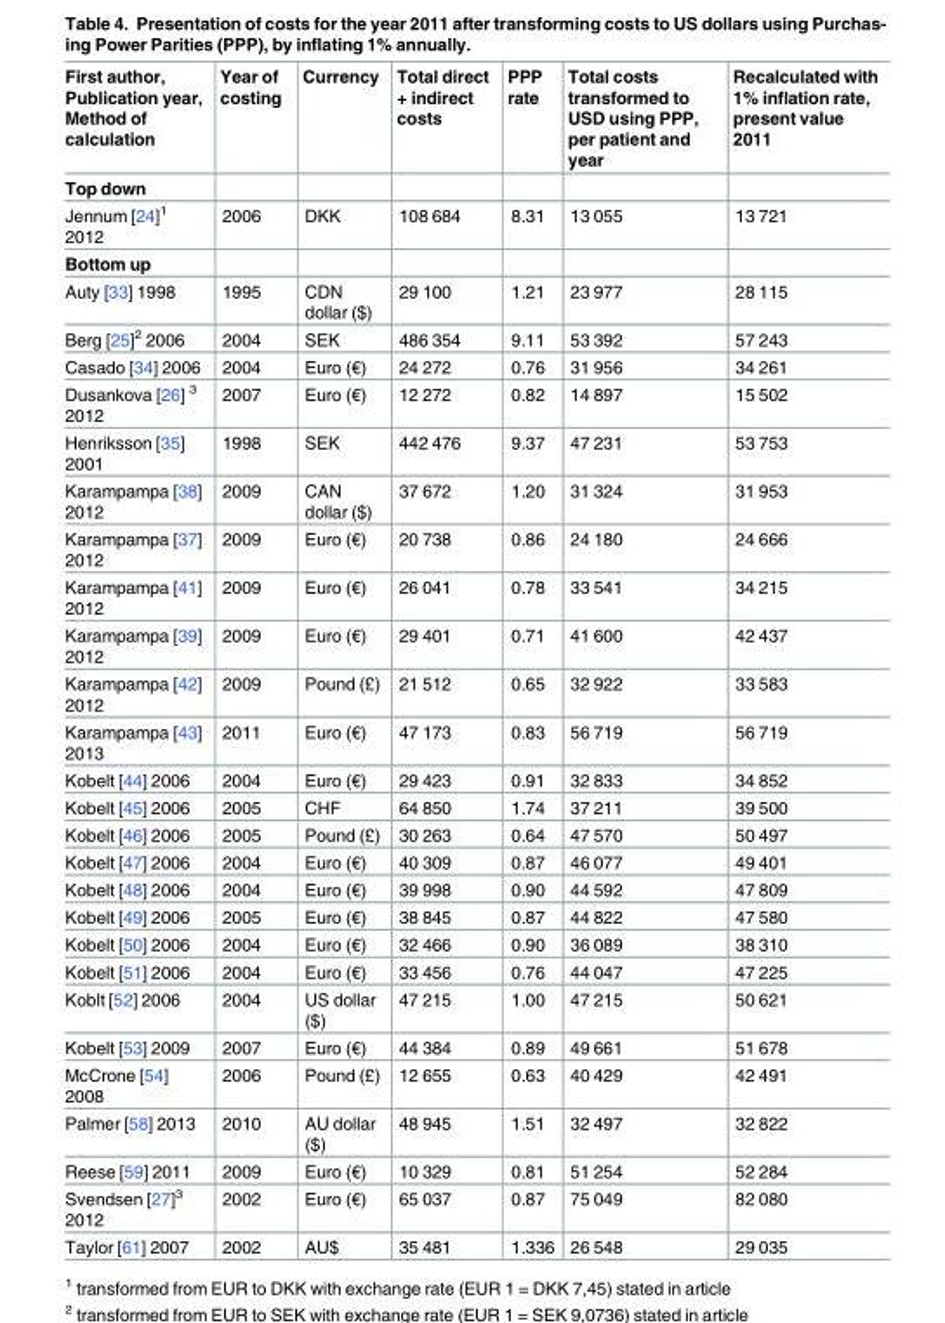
<table><thead><tr><td>First author, Publication year, Method of calculation</td><td>Year of costing</td><td>Currency</td><td>Total direct + indirect costs</td><td>PPP rate</td><td>Total costs transformed to USD using PPP, per patient and year</td><td>Recalculated with 1% inflation rate, present value 2011</td></tr></thead><tbody><tr><td colspan="7">Top down</td></tr><tr><td>Jennum [24]<sup>1</sup> 2012</td><td>2006</td><td>DKK</td><td>108 684</td><td>8.31</td><td>13 055</td><td>13 721</td></tr><tr><td colspan="7">Bottom up</td></tr><tr><td>Auty [33] 1998</td><td>1995</td><td>CDN dollar ($)</td><td>29 100</td><td>1.21</td><td>23 977</td><td>28 115</td></tr><tr><td>Berg [25]<sup>2</sup> 2006</td><td>2004</td><td>SEK</td><td>486 354</td><td>9.11</td><td>53 392</td><td>57 243</td></tr><tr><td>Casado [34] 2006</td><td>2004</td><td>Euro (€)</td><td>24 272</td><td>0.76</td><td>31 956</td><td>34 261</td></tr><tr><td>Dusankova [26] <sup>3</sup> 2012</td><td>2007</td><td>Euro (€)</td><td>12 272</td><td>0.82</td><td>14 897</td><td>15 502</td></tr><tr><td>Henriksson [35] 2001</td><td>1998</td><td>SEK</td><td>442 476</td><td>9.37</td><td>47 231</td><td>53 753</td></tr><tr><td>Karampampa [38] 2012</td><td>2009</td><td>CAN dollar ($)</td><td>37 672</td><td>1.20</td><td>31 324</td><td>31 953</td></tr><tr><td>Karampampa [37] 2012</td><td>2009</td><td>Euro (€)</td><td>20 738</td><td>0.86</td><td>24 180</td><td>24 666</td></tr><tr><td>Karampampa [41] 2012</td><td>2009</td><td>Euro (€)</td><td>26 041</td><td>0.78</td><td>33 541</td><td>34 215</td></tr><tr><td>Karampampa [39] 2012</td><td>2009</td><td>Euro (€)</td><td>29 401</td><td>0.71</td><td>41 600</td><td>42 437</td></tr><tr><td>Karampampa [42] 2012</td><td>2009</td><td>Pound (£)</td><td>21 512</td><td>0.65</td><td>32 922</td><td>33 583</td></tr><tr><td>Karampampa [43] 2013</td><td>2011</td><td>Euro (€)</td><td>47 173</td><td>0.83</td><td>56 719</td><td>56 719</td></tr><tr><td>Kobelt [44] 2006</td><td>2004</td><td>Euro (€)</td><td>29 423</td><td>0.91</td><td>32 833</td><td>34 852</td></tr><tr><td>Kobelt [45] 2006</td><td>2005</td><td>CHF</td><td>64 850</td><td>1.74</td><td>37 211</td><td>39 500</td></tr><tr><td>Kobelt [46] 2006</td><td>2005</td><td>Pound (£)</td><td>30 263</td><td>0.64</td><td>47 570</td><td>50 497</td></tr><tr><td>Kobelt [47] 2006</td><td>2004</td><td>Euro (€)</td><td>40 309</td><td>0.87</td><td>46 077</td><td>49 401</td></tr><tr><td>Kobelt [48] 2006</td><td>2004</td><td>Euro (€)</td><td>39 998</td><td>0.90</td><td>44 592</td><td>47 809</td></tr><tr><td>Kobelt [49] 2006</td><td>2005</td><td>Euro (€)</td><td>38 845</td><td>0.87</td><td>44 822</td><td>47 580</td></tr><tr><td>Kobelt [50] 2006</td><td>2004</td><td>Euro (€)</td><td>32 466</td><td>0.90</td><td>36 089</td><td>38 310</td></tr><tr><td>Kobelt [51] 2006</td><td>2004</td><td>Euro (€)</td><td>33 456</td><td>0.76</td><td>44 047</td><td>47 225</td></tr><tr><td>Koblt [52] 2006</td><td>2004</td><td>US dollar ($)</td><td>47 215</td><td>1.00</td><td>47 215</td><td>50 621</td></tr><tr><td>Kobelt [53] 2009</td><td>2007</td><td>Euro (€)</td><td>44 384</td><td>0.89</td><td>49 661</td><td>51 678</td></tr><tr><td>McCrone [54] 2008</td><td>2006</td><td>Pound (£)</td><td>12 655</td><td>0.63</td><td>40 429</td><td>42 491</td></tr><tr><td>Palmer [58] 2013</td><td>2010</td><td>AU dollar ($)</td><td>48 945</td><td>1.51</td><td>32 497</td><td>32 822</td></tr><tr><td>Reese [59] 2011</td><td>2009</td><td>Euro (€)</td><td>10 329</td><td>0.81</td><td>51 254</td><td>52 284</td></tr><tr><td>Svendsen [27]<sup>3</sup> 2012</td><td>2002</td><td>Euro (€)</td><td>65 037</td><td>0.87</td><td>75 049</td><td>82 080</td></tr><tr><td>Taylor [61] 2007</td><td>2002</td><td>AU$</td><td>35 481</td><td>1.336</td><td>26 548</td><td>29 035</td></tr></tbody></table>